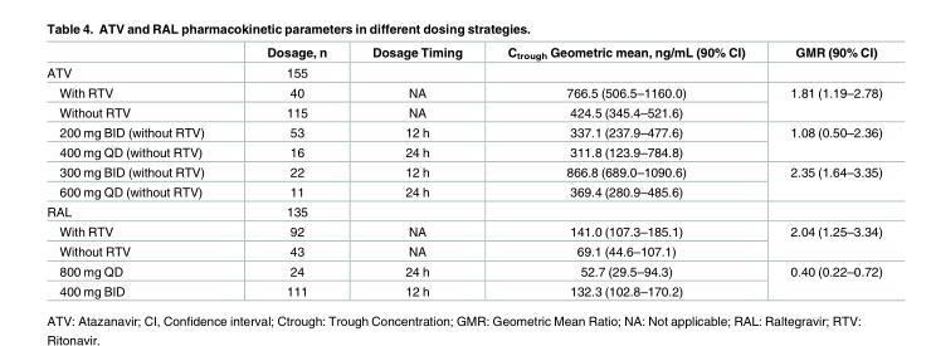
<table><thead><tr><td></td><td>Dosage, n</td><td>Dosage Timing</td><td>C<sub>trough</sub> Geometric mean, ng/mL (90% CI)</td><td>GMR (90% CI)</td></tr></thead><tbody><tr><td>ATV</td><td>155</td><td></td><td></td><td></td></tr><tr><td>With RTV</td><td>40</td><td>NA</td><td>766.5 (506.5–1160.0)</td><td rowspan="2">1.81 (1.19–2.78)</td></tr><tr><td>Without RTV</td><td>115</td><td>NA</td><td>424.5 (345.4–521.6)</td></tr><tr><td>200 mg BID (without RTV)</td><td>53</td><td>12 h</td><td>337.1 (237.9–477.6)</td><td rowspan="2">1.08 (0.50–2.36)</td></tr><tr><td>400 mg QD (without RTV)</td><td>16</td><td>24 h</td><td>311.8 (123.9–784.8)</td></tr><tr><td>300 mg BID (without RTV)</td><td>22</td><td>12 h</td><td>866.8 (689.0–1090.6)</td><td rowspan="2">2.35 (1.64–3.35)</td></tr><tr><td>600 mg QD (without RTV)</td><td>11</td><td>24 h</td><td>369.4 (280.9–485.6)</td></tr><tr><td>RAL</td><td>135</td><td></td><td></td><td></td></tr><tr><td>With RTV</td><td>92</td><td>NA</td><td>141.0 (107.3–185.1)</td><td rowspan="2">2.04 (1.25–3.34)</td></tr><tr><td>Without RTV</td><td>43</td><td>NA</td><td>69.1 (44.6–107.1)</td></tr><tr><td>800 mg QD</td><td>24</td><td>24 h</td><td>52.7 (29.5–94.3)</td><td rowspan="2">0.40 (0.22–0.72)</td></tr><tr><td>400 mg BID</td><td>111</td><td>12 h</td><td>132.3 (102.8–170.2)</td></tr></tbody></table>